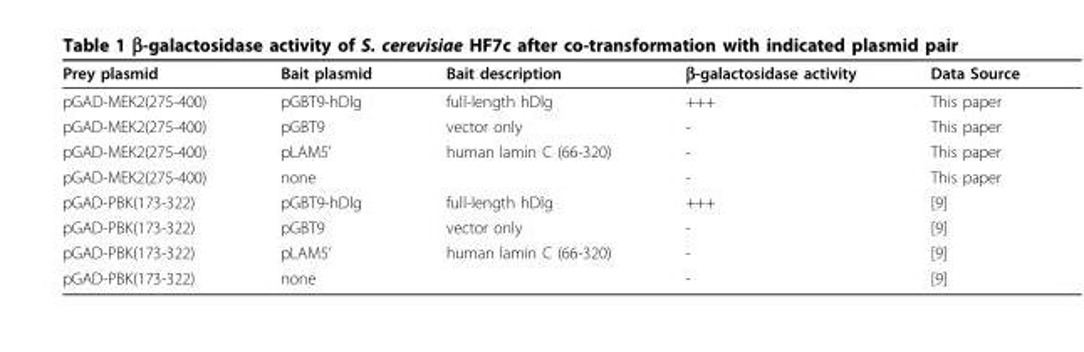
<table><thead><tr><td>Prey plasmid</td><td>Bait plasmid</td><td>Bait description</td><td>β-galactosidase activity</td><td>Data Source</td></tr></thead><tbody><tr><td>pGAD-MEK2(275-400)</td><td>pGBT9-hDlg</td><td>full-length hDlg</td><td>+++</td><td>This paper</td></tr><tr><td>pGAD-MEK2(275-400)</td><td>pGBT9</td><td>vector only</td><td>-</td><td>This paper</td></tr><tr><td>pGAD-MEK2(275-400)</td><td>pLAM5’</td><td>human lamin C (66-320)</td><td>-</td><td>This paper</td></tr><tr><td>pGAD-MEK2(275-400)</td><td>none</td><td></td><td>-</td><td>This paper</td></tr><tr><td>pGAD-PBK(173-322)</td><td>pGBT9-hDlg</td><td>full-length hDlg</td><td>+++</td><td>[9]</td></tr><tr><td>pGAD-PBK(173-322)</td><td>pGBT9</td><td>vector only</td><td>-</td><td>[9]</td></tr><tr><td>pGAD-PBK(173-322)</td><td>pLAM5’</td><td>human lamin C (66-320)</td><td>-</td><td>[9]</td></tr><tr><td>pGAD-PBK(173-322)</td><td>none</td><td></td><td>-</td><td>[9]</td></tr></tbody></table>